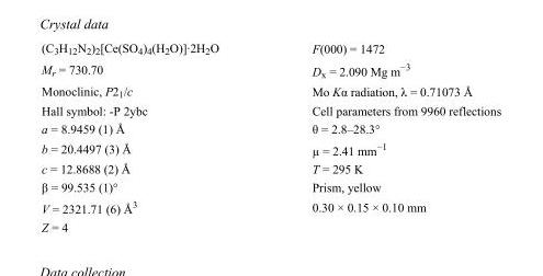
<table><tbody><tr><td>(C<sub>3</sub>H<sub>12</sub>N<sub>2</sub>)<sub>2</sub>[Ce(SO<sub>4</sub>)<sub>4</sub>(H<sub>2</sub>O)]·2H<sub>2</sub>O</td><td>F(000) = 1472</td></tr><tr><td>M<sub>r</sub> = 730.70</td><td>D<sub>x</sub> = 2.090 Mg m<sup>−3</sup></td></tr><tr><td>Monoclinic, P2<sub>1</sub>/c</td><td>Mo Kα radiation, λ = 0.71073 Å</td></tr><tr><td>Hall symbol: -P 2ybc</td><td>Cell parameters from 9960 reflections</td></tr><tr><td>a = 8.9459 (1) Å</td><td>θ = 2.8–28.3°</td></tr><tr><td>b = 20.4497 (3) Å</td><td>µ = 2.41 mm<sup>−1</sup></td></tr><tr><td>c = 12.8688 (2) Å</td><td>T = 295 K</td></tr><tr><td>β = 99.535 (1)°</td><td>Prism, yellow</td></tr><tr><td>V = 2321.71 (6) Å<sup>3</sup></td><td>0.30 × 0.15 × 0.10 mm</td></tr><tr><td>Z = 4</td><td></td></tr></tbody></table>